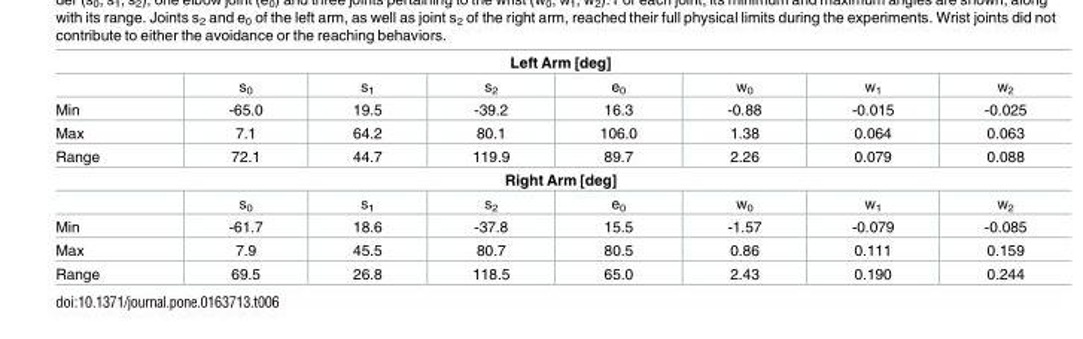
<table><tbody><tr><td colspan="8">Left Arm [deg]</td></tr><tr><td></td><td>s<sub>0</sub></td><td>s<sub>1</sub></td><td>s<sub>2</sub></td><td>e<sub>0</sub></td><td>w<sub>0</sub></td><td>w<sub>1</sub></td><td>w<sub>2</sub></td></tr><tr><td>Min</td><td>-65.0</td><td>19.5</td><td>-39.2</td><td>16.3</td><td>-0.88</td><td>-0.015</td><td>-0.025</td></tr><tr><td>Max</td><td>7.1</td><td>64.2</td><td>80.1</td><td>106.0</td><td>1.38</td><td>0.064</td><td>0.063</td></tr><tr><td>Range</td><td>72.1</td><td>44.7</td><td>119.9</td><td>89.7</td><td>2.26</td><td>0.079</td><td>0.088</td></tr><tr><td colspan="8">Right Arm [deg]</td></tr><tr><td></td><td>s<sub>0</sub></td><td>s<sub>1</sub></td><td>s<sub>2</sub></td><td>e<sub>0</sub></td><td>w<sub>0</sub></td><td>w<sub>1</sub></td><td>w<sub>2</sub></td></tr><tr><td>Min</td><td>-61.7</td><td>18.6</td><td>-37.8</td><td>15.5</td><td>-1.57</td><td>-0.079</td><td>-0.085</td></tr><tr><td>Max</td><td>7.9</td><td>45.5</td><td>80.7</td><td>80.5</td><td>0.86</td><td>0.111</td><td>0.159</td></tr><tr><td>Range</td><td>69.5</td><td>26.8</td><td>118.5</td><td>65.0</td><td>2.43</td><td>0.190</td><td>0.244</td></tr></tbody></table>